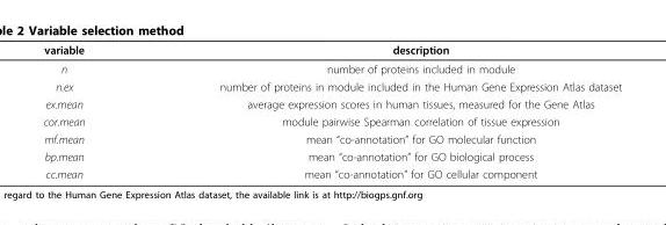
<table><thead><tr><td>variable</td><td>description</td></tr></thead><tbody><tr><td>n</td><td>number of proteins included in module</td></tr><tr><td>n.ex</td><td>number of proteins in module included in the Human Gene Expression Atlas dataset</td></tr><tr><td>ex.mean</td><td>average expression scores in human tissues, measured for the Gene Atlas</td></tr><tr><td>cor.mean</td><td>module pairwise Spearman correlation of tissue expression</td></tr><tr><td>mf.mean</td><td>mean “co-annotation” for GO molecular function</td></tr><tr><td>bp.mean</td><td>mean “co-annotation” for GO biological process</td></tr><tr><td>cc.mean</td><td>mean “co-annotation” for GO cellular component</td></tr></tbody></table>